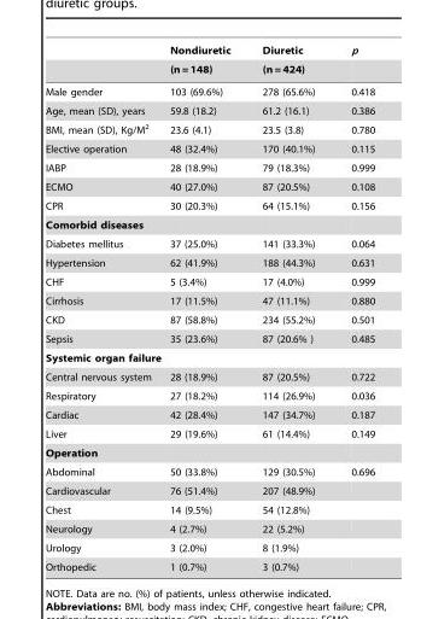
<table><thead><tr><td rowspan="2"></td><td rowspan="2">Nondiuretic (n = 148)</td><td rowspan="2">Diuretic (n = 424)</td><td rowspan="2">p</td></tr><tr></tr></thead><tbody><tr><td>Male gender</td><td>103 (69.6%)</td><td>278 (65.6%)</td><td>0.418</td></tr><tr><td>Age, mean (SD), years</td><td>59.8 (18.2)</td><td>61.2 (16.1)</td><td>0.386</td></tr><tr><td>BMI, mean (SD), Kg/M<sup>2</sup></td><td>23.6 (4.1)</td><td>23.5 (3.8)</td><td>0.780</td></tr><tr><td>Elective operation</td><td>48 (32.4%)</td><td>170 (40.1%)</td><td>0.115</td></tr><tr><td>IABP</td><td>28 (18.9%)</td><td>79 (18.3%)</td><td>0.999</td></tr><tr><td>ECMO</td><td>40 (27.0%)</td><td>87 (20.5%)</td><td>0.108</td></tr><tr><td>CPR</td><td>30 (20.3%)</td><td>64 (15.1%)</td><td>0.156</td></tr><tr><td colspan="4">Comorbid diseases</td></tr><tr><td>Diabetes mellitus</td><td>37 (25.0%)</td><td>141 (33.3%)</td><td>0.064</td></tr><tr><td>Hypertension</td><td>62 (41.9%)</td><td>188 (44.3%)</td><td>0.631</td></tr><tr><td>CHF</td><td>5 (3.4%)</td><td>17 (4.0%)</td><td>0.999</td></tr><tr><td>Cirrhosis</td><td>17 (11.5%)</td><td>47 (11.1%)</td><td>0.880</td></tr><tr><td>CKD</td><td>87 (58.8%)</td><td>234 (55.2%)</td><td>0.501</td></tr><tr><td>Sepsis</td><td>35 (23.6%)</td><td>87 (20.6% )</td><td>0.485</td></tr><tr><td colspan="4">Systemic organ failure</td></tr><tr><td>Central nervous system</td><td>28 (18.9%)</td><td>87 (20.5%)</td><td>0.722</td></tr><tr><td>Respiratory</td><td>27 (18.2%)</td><td>114 (26.9%)</td><td>0.036</td></tr><tr><td>Cardiac</td><td>42 (28.4%)</td><td>147 (34.7%)</td><td>0.187</td></tr><tr><td>Liver</td><td>29 (19.6%)</td><td>61 (14.4%)</td><td>0.149</td></tr><tr><td colspan="4">Operation</td></tr><tr><td>Abdominal</td><td>50 (33.8%)</td><td>129 (30.5%)</td><td>0.696</td></tr><tr><td>Cardiovascular</td><td>76 (51.4%)</td><td>207 (48.9%)</td><td></td></tr><tr><td>Chest</td><td>14 (9.5%)</td><td>54 (12.8%)</td><td></td></tr><tr><td>Neurology</td><td>4 (2.7%)</td><td>22 (5.2%)</td><td></td></tr><tr><td>Urology</td><td>3 (2.0%)</td><td>8 (1.9%)</td><td></td></tr><tr><td>Orthopedic</td><td>1 (0.7%)</td><td>3 (0.7%)</td><td></td></tr></tbody></table>